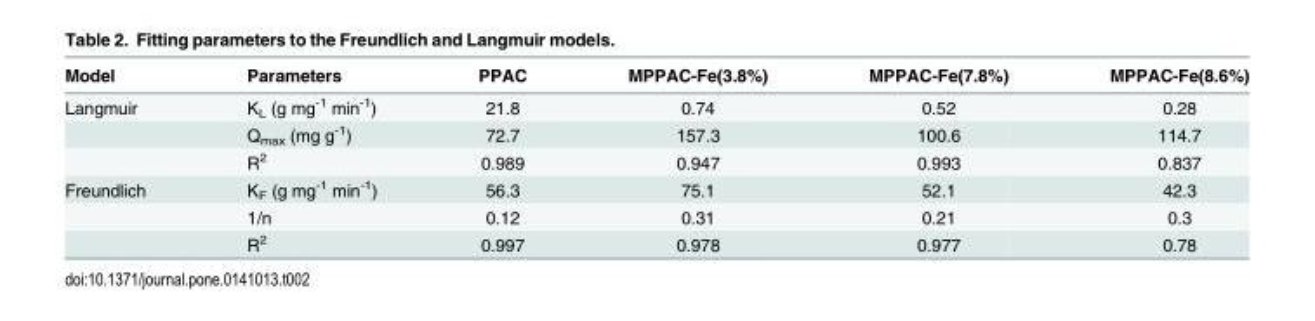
<table><thead><tr><td>Model</td><td>Parameters</td><td>PPAC</td><td>MPPAC-Fe(3.8%)</td><td>MPPAC-Fe(7.8%)</td><td>MPPAC-Fe(8.6%)</td></tr></thead><tbody><tr><td rowspan="3">Langmuir</td><td>K<sub>L</sub> (g mg<sup>-1</sup> min<sup>-1</sup>)</td><td>21.8</td><td>0.74</td><td>0.52</td><td>0.28</td></tr><tr><td>Q<sub>max</sub> (mg g<sup>-1</sup>)</td><td>72.7</td><td>157.3</td><td>100.6</td><td>114.7</td></tr><tr><td>R<sup>2</sup></td><td>0.989</td><td>0.947</td><td>0.993</td><td>0.837</td></tr><tr><td rowspan="3">Freundlich</td><td>K<sub>F</sub> (g mg<sup>-1</sup> min<sup>-1</sup>)</td><td>56.3</td><td>75.1</td><td>52.1</td><td>42.3</td></tr><tr><td>1/n</td><td>0.12</td><td>0.31</td><td>0.21</td><td>0.3</td></tr><tr><td>R<sup>2</sup></td><td>0.997</td><td>0.978</td><td>0.977</td><td>0.78</td></tr></tbody></table>